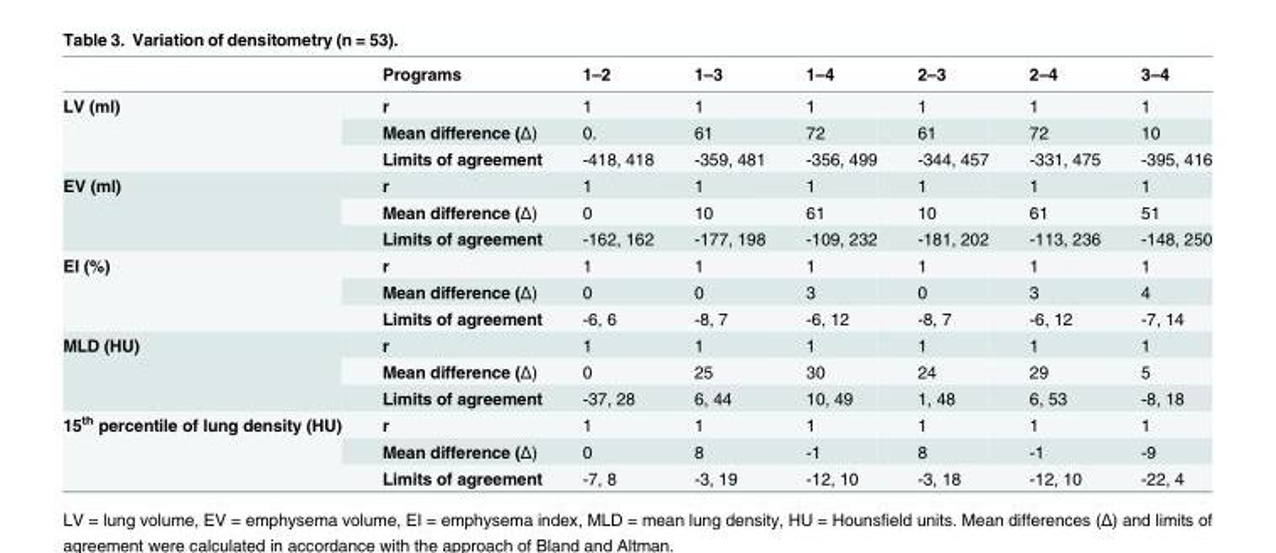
<table><thead><tr><td></td><td>Programs</td><td>1–2</td><td>1–3</td><td>1–4</td><td>2–3</td><td>2–4</td><td>3–4</td></tr></thead><tbody><tr><td rowspan="3">LV (ml)</td><td>r</td><td>1</td><td>1</td><td>1</td><td>1</td><td>1</td><td>1</td></tr><tr><td>Mean difference (Δ)</td><td>0.</td><td>61</td><td>72</td><td>61</td><td>72</td><td>10</td></tr><tr><td>Limits of agreement</td><td>-418, 418</td><td>-359, 481</td><td>-356, 499</td><td>-344, 457</td><td>-331, 475</td><td>-395, 416</td></tr><tr><td rowspan="3">EV (ml)</td><td>r</td><td>1</td><td>1</td><td>1</td><td>1</td><td>1</td><td>1</td></tr><tr><td>Mean difference (Δ)</td><td>0</td><td>10</td><td>61</td><td>10</td><td>61</td><td>51</td></tr><tr><td>Limits of agreement</td><td>-162, 162</td><td>-177, 198</td><td>-109, 232</td><td>-181, 202</td><td>-113, 236</td><td>-148, 250</td></tr><tr><td rowspan="3">EI (%)</td><td>r</td><td>1</td><td>1</td><td>1</td><td>1</td><td>1</td><td>1</td></tr><tr><td>Mean difference (Δ)</td><td>0</td><td>0</td><td>3</td><td>0</td><td>3</td><td>4</td></tr><tr><td>Limits of agreement</td><td>-6, 6</td><td>-8, 7</td><td>-6, 12</td><td>-8, 7</td><td>-6, 12</td><td>-7, 14</td></tr><tr><td rowspan="3">MLD (HU)</td><td>r</td><td>1</td><td>1</td><td>1</td><td>1</td><td>1</td><td>1</td></tr><tr><td>Mean difference (Δ)</td><td>0</td><td>25</td><td>30</td><td>24</td><td>29</td><td>5</td></tr><tr><td>Limits of agreement</td><td>-37, 28</td><td>6, 44</td><td>10, 49</td><td>1, 48</td><td>6, 53</td><td>-8, 18</td></tr><tr><td rowspan="3">15<sup>th</sup> percentile of lung density (HU)</td><td>r</td><td>1</td><td>1</td><td>1</td><td>1</td><td>1</td><td>1</td></tr><tr><td>Mean difference (Δ)</td><td>0</td><td>8</td><td>-1</td><td>8</td><td>-1</td><td>-9</td></tr><tr><td>Limits of agreement</td><td>-7, 8</td><td>-3, 19</td><td>-12, 10</td><td>-3, 18</td><td>-12, 10</td><td>-22, 4</td></tr></tbody></table>